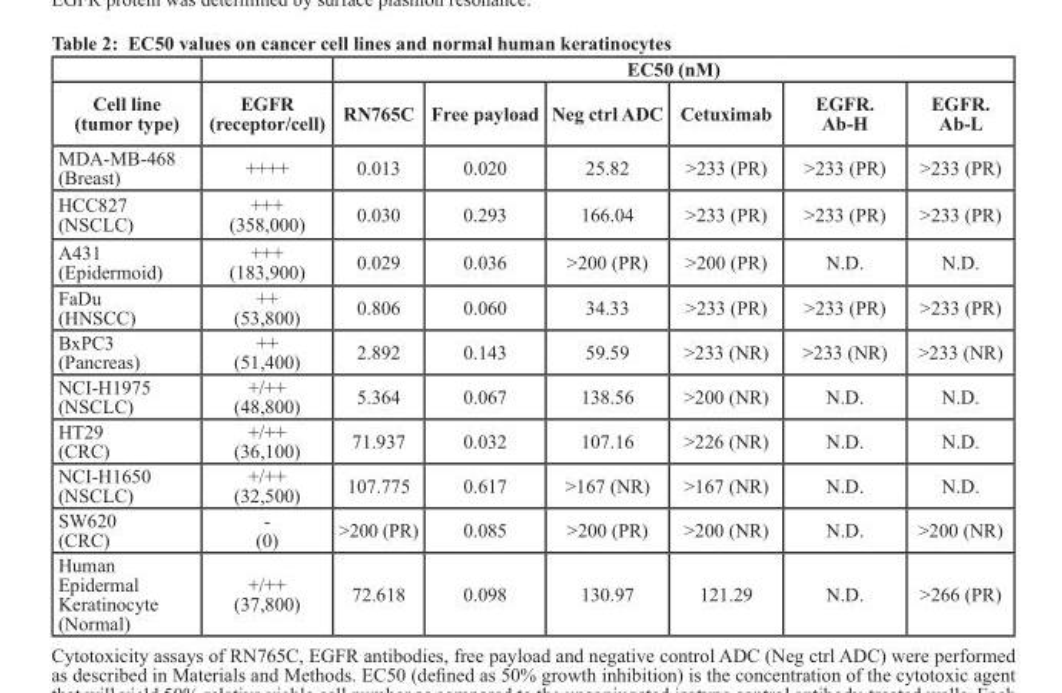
<table><thead><tr><td rowspan="2">Cell line (tumor type)</td><td rowspan="2">EGFR (receptor/cell)</td><td colspan="6">EC50 (nM)</td></tr><tr><td>RN765C</td><td>Free payload</td><td>Neg ctrl ADC</td><td>Cetuximab</td><td>EGFR. Ab-H</td><td>EGFR. Ab-L</td></tr></thead><tbody><tr><td>MDA-MB-468 (Breast)</td><td>++++</td><td>0.013</td><td>0.020</td><td>25.82</td><td>&gt;233 (PR)</td><td>&gt;233 (PR)</td><td>&gt;233 (PR)</td></tr><tr><td>HCC827 (NSCLC)</td><td>+++ (358,000)</td><td>0.030</td><td>0.293</td><td>166.04</td><td>&gt;233 (PR)</td><td>&gt;233 (PR)</td><td>&gt;233 (PR)</td></tr><tr><td>A431 (Epidermoid)</td><td>+++ (183,900)</td><td>0.029</td><td>0.036</td><td>&gt;200 (PR)</td><td>&gt;200 (PR)</td><td>N.D.</td><td>N.D.</td></tr><tr><td>FaDu (HNSCC)</td><td>++ (53,800)</td><td>0.806</td><td>0.060</td><td>34.33</td><td>&gt;233 (PR)</td><td>&gt;233 (PR)</td><td>&gt;233 (PR)</td></tr><tr><td>BxPC3 (Pancreas)</td><td>++ (51,400)</td><td>2.892</td><td>0.143</td><td>59.59</td><td>&gt;233 (NR)</td><td>&gt;233 (NR)</td><td>&gt;233 (NR)</td></tr><tr><td>NCI-H1975 (NSCLC)</td><td>+/++ (48,800)</td><td>5.364</td><td>0.067</td><td>138.56</td><td>&gt;200 (NR)</td><td>N.D.</td><td>N.D.</td></tr><tr><td>HT29 (CRC)</td><td>+/++ (36,100)</td><td>71.937</td><td>0.032</td><td>107.16</td><td>&gt;226 (NR)</td><td>N.D.</td><td>N.D.</td></tr><tr><td>NCI-H1650 (NSCLC)</td><td>+/++ (32,500)</td><td>107.775</td><td>0.617</td><td>&gt;167 (NR)</td><td>&gt;167 (NR)</td><td>N.D.</td><td>N.D.</td></tr><tr><td>SW620 (CRC)</td><td>- (0)</td><td>&gt;200 (PR)</td><td>0.085</td><td>&gt;200 (PR)</td><td>&gt;200 (NR)</td><td>N.D.</td><td>&gt;200 (NR)</td></tr><tr><td>Human Epidermal Keratinocyte (Normal)</td><td>+/++ (37,800)</td><td>72.618</td><td>0.098</td><td>130.97</td><td>121.29</td><td>N.D.</td><td>&gt;266 (PR)</td></tr></tbody></table>